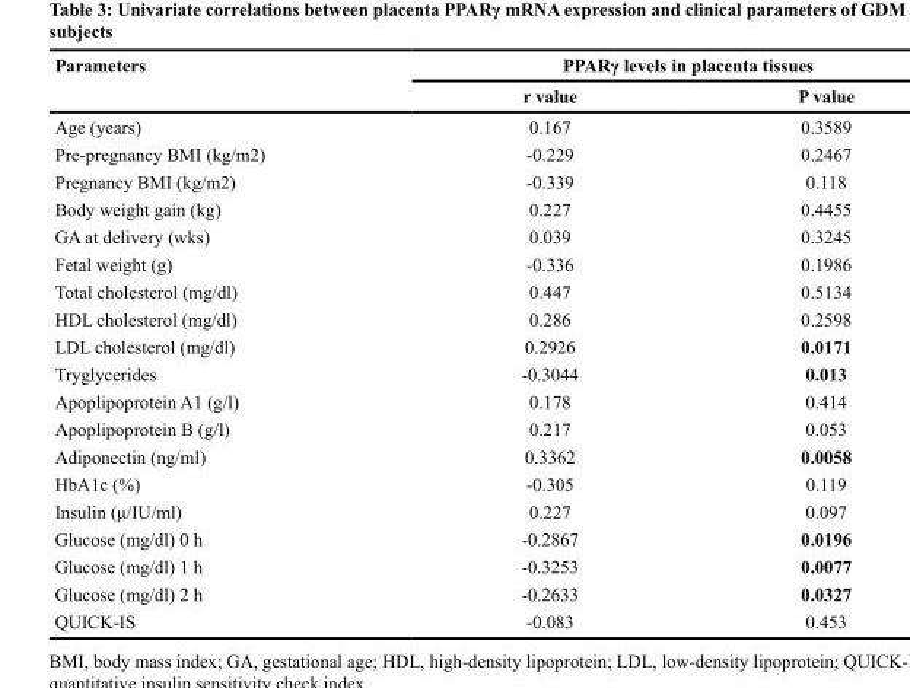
<table><thead><tr><td rowspan="2">Parameters</td><td colspan="2">PPARγ levels in placenta tissues</td></tr><tr><td>r value</td><td>P value</td></tr></thead><tbody><tr><td>Age (years)</td><td>0.167</td><td>0.3589</td></tr><tr><td>Pre-pregnancy BMI (kg/m2)</td><td>-0.229</td><td>0.2467</td></tr><tr><td>Pregnancy BMI (kg/m2)</td><td>-0.339</td><td>0.118</td></tr><tr><td>Body weight gain (kg)</td><td>0.227</td><td>0.4455</td></tr><tr><td>GA at delivery (wks)</td><td>0.039</td><td>0.3245</td></tr><tr><td>Fetal weight (g)</td><td>-0.336</td><td>0.1986</td></tr><tr><td>Total cholesterol (mg/dl)</td><td>0.447</td><td>0.5134</td></tr><tr><td>HDL cholesterol (mg/dl)</td><td>0.286</td><td>0.2598</td></tr><tr><td>LDL cholesterol (mg/dl)</td><td>0.2926</td><td>0.0171</td></tr><tr><td>Tryglycerides</td><td>-0.3044</td><td>0.013</td></tr><tr><td>Apoplipoprotein A1 (g/l)</td><td>0.178</td><td>0.414</td></tr><tr><td>Apoplipoprotein B (g/l)</td><td>0.217</td><td>0.053</td></tr><tr><td>Adiponectin (ng/ml)</td><td>0.3362</td><td>0.0058</td></tr><tr><td>HbA1c (%)</td><td>-0.305</td><td>0.119</td></tr><tr><td>Insulin (μ/IU/ml)</td><td>0.227</td><td>0.097</td></tr><tr><td>Glucose (mg/dl) 0 h</td><td>-0.2867</td><td>0.0196</td></tr><tr><td>Glucose (mg/dl) 1 h</td><td>-0.3253</td><td>0.0077</td></tr><tr><td>Glucose (mg/dl) 2 h</td><td>-0.2633</td><td>0.0327</td></tr><tr><td>QUICK-IS</td><td>-0.083</td><td>0.453</td></tr></tbody></table>